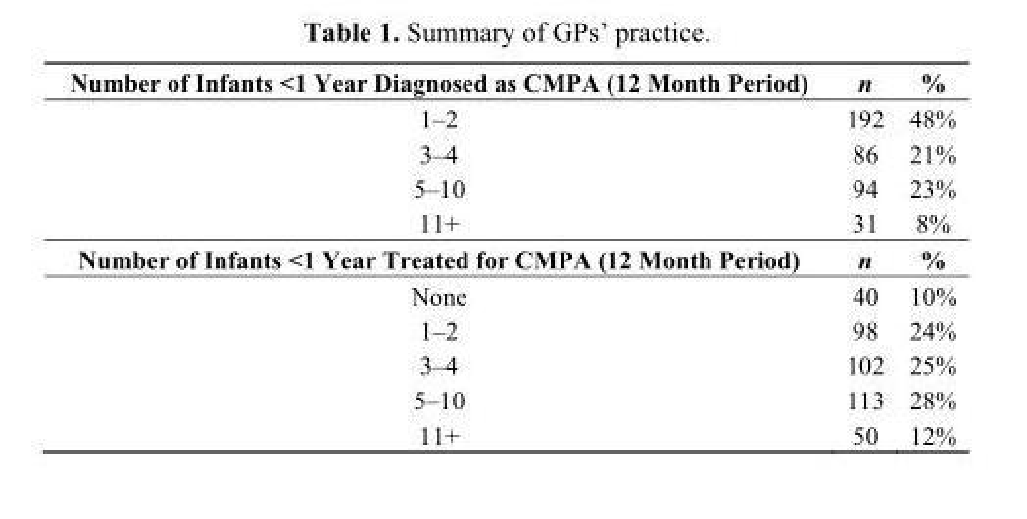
<table><thead><tr><td>Number of Infants &lt;1 Year Diagnosed as CMPA (12 Month Period)</td><td>n</td><td>%</td></tr></thead><tbody><tr><td>1–2</td><td>192</td><td>48%</td></tr><tr><td>3–4</td><td>86</td><td>21%</td></tr><tr><td>5–10</td><td>94</td><td>23%</td></tr><tr><td>11+</td><td>31</td><td>8%</td></tr><tr><td>Number of Infants &lt;1 Year Treated for CMPA (12 Month Period)</td><td>n</td><td>%</td></tr><tr><td>None</td><td>40</td><td>10%</td></tr><tr><td>1–2</td><td>98</td><td>24%</td></tr><tr><td>3–4</td><td>102</td><td>25%</td></tr><tr><td>5–10</td><td>113</td><td>28%</td></tr><tr><td>11+</td><td>50</td><td>12%</td></tr></tbody></table>